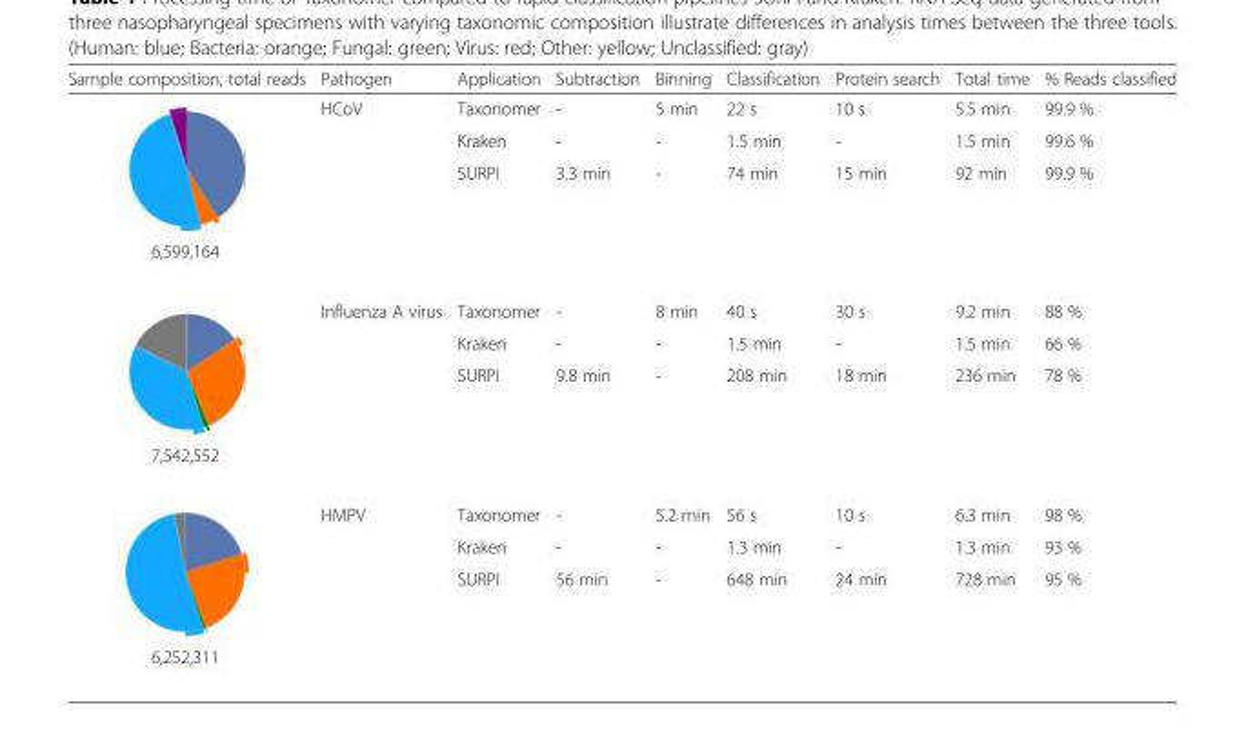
<table><thead><tr><td>Sample composition, total reads</td><td>Pathogen</td><td>Application</td><td>Subtraction</td><td>Binning</td><td>Classification</td><td>Protein search</td><td>Total time</td><td>% Reads classified</td></tr></thead><tbody><tr><td rowspan="3">6,599,164</td><td rowspan="3">HCoV</td><td>Taxonomer</td><td>-</td><td>5 min</td><td>22 s</td><td>10 s</td><td>5.5 min</td><td>99.9 %</td></tr><tr><td>Kraken</td><td>-</td><td>-</td><td>1.5 min</td><td>-</td><td>1.5 min</td><td>99.6 %</td></tr><tr><td>SURPI</td><td>3.3 min</td><td>-</td><td>74 min</td><td>15 min</td><td>92 min</td><td>99.9 %</td></tr><tr><td rowspan="3">7,542,552</td><td rowspan="3">Influenza A virus</td><td>Taxonomer</td><td>-</td><td>8 min</td><td>40 s</td><td>30 s</td><td>9.2 min</td><td>88 %</td></tr><tr><td>Kraken</td><td>-</td><td>-</td><td>1.5 min</td><td>-</td><td>1.5 min</td><td>66 %</td></tr><tr><td>SURPI</td><td>9.8 min</td><td>-</td><td>208 min</td><td>18 min</td><td>236 min</td><td>78 %</td></tr><tr><td rowspan="3">6,252,311</td><td rowspan="3">HMPV</td><td>Taxonomer</td><td>-</td><td>5.2 min</td><td>56 s</td><td>10 s</td><td>6.3 min</td><td>98 %</td></tr><tr><td>Kraken</td><td>-</td><td>-</td><td>1.3 min</td><td>-</td><td>1.3 min</td><td>93 %</td></tr><tr><td>SURPI</td><td>56 min</td><td>-</td><td>648 min</td><td>24 min</td><td>728 min</td><td>95 %</td></tr></tbody></table>